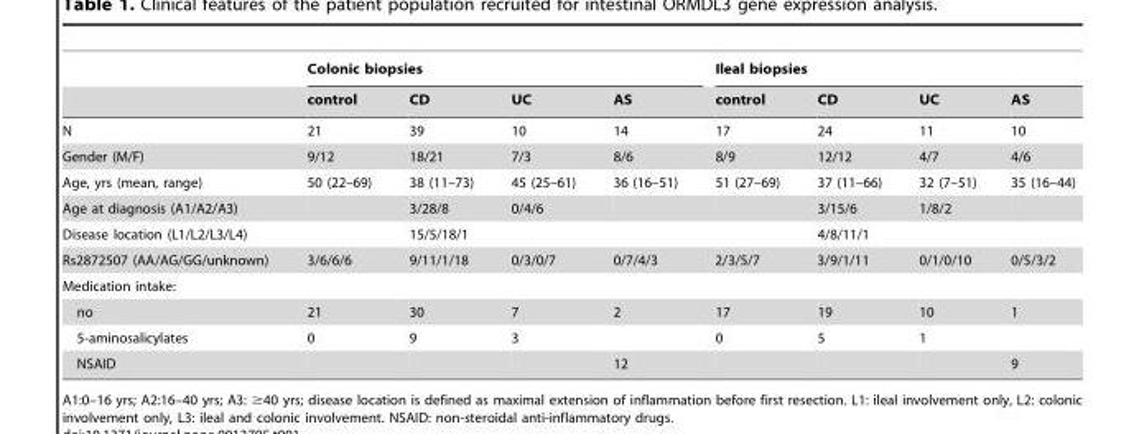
<table><thead><tr><td rowspan="2"></td><td colspan="4">Colonic biopsies</td><td colspan="4">Ileal biopsies</td></tr><tr><td>control</td><td>CD</td><td>UC</td><td>AS</td><td>control</td><td>CD</td><td>UC</td><td>AS</td></tr></thead><tbody><tr><td>N</td><td>21</td><td>39</td><td>10</td><td>14</td><td>17</td><td>24</td><td>11</td><td>10</td></tr><tr><td>Gender (M/F)</td><td>9/12</td><td>18/21</td><td>7/3</td><td>8/6</td><td>8/9</td><td>12/12</td><td>4/7</td><td>4/6</td></tr><tr><td>Age, yrs (mean, range)</td><td>50 (22–69)</td><td>38 (11–73)</td><td>45 (25–61)</td><td>36 (16–51)</td><td>51 (27–69)</td><td>37 (11–66)</td><td>32 (7–51)</td><td>35 (16–44)</td></tr><tr><td>Age at diagnosis (A1/A2/A3)</td><td></td><td>3/28/8</td><td>0/4/6</td><td></td><td></td><td>3/15/6</td><td>1/8/2</td><td></td></tr><tr><td>Disease location (L1/L2/L3/L4)</td><td></td><td>15/5/18/1</td><td></td><td></td><td></td><td>4/8/11/1</td><td></td><td></td></tr><tr><td>Rs2872507 (AA/AG/GG/unknown)</td><td>3/6/6/6</td><td>9/11/1/18</td><td>0/3/0/7</td><td>0/7/4/3</td><td>2/3/5/7</td><td>3/9/1/11</td><td>0/1/0/10</td><td>0/5/3/2</td></tr><tr><td colspan="9">Medication intake:</td></tr><tr><td>no</td><td>21</td><td>30</td><td>7</td><td>2</td><td>17</td><td>19</td><td>10</td><td>1</td></tr><tr><td>5-aminosalicylates</td><td>0</td><td>9</td><td>3</td><td></td><td>0</td><td>5</td><td>1</td><td></td></tr><tr><td>NSAID</td><td></td><td></td><td></td><td>12</td><td></td><td></td><td></td><td>9</td></tr></tbody></table>